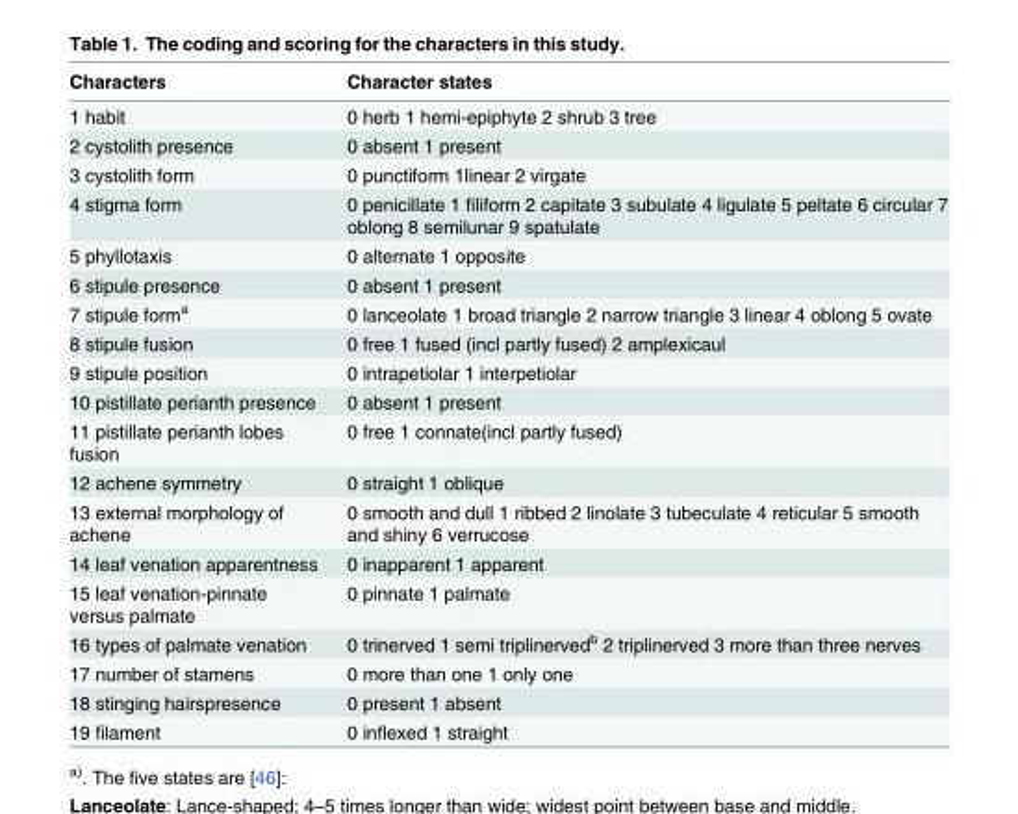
<table><thead><tr><td>Characters</td><td>Character states</td></tr></thead><tbody><tr><td>1 habit</td><td>0 herb 1 hemi-epiphyte 2 shrub 3 tree</td></tr><tr><td>2 cystolith presence</td><td>0 absent 1 present</td></tr><tr><td>3 cystolith form</td><td>0 punctiform 1linear 2 virgate</td></tr><tr><td>4 stigma form</td><td>0 penicillate 1 filiform 2 capitate 3 subulate 4 ligulate 5 peltate 6 circular 7 oblong 8 semilunar 9 spatulate</td></tr><tr><td>5 phyllotaxis</td><td>0 alternate 1 opposite</td></tr><tr><td>6 stipule presence</td><td>0 absent 1 present</td></tr><tr><td>7 stipule form<sup>a</sup></td><td>0 lanceolate 1 broad triangle 2 narrow triangle 3 linear 4 oblong 5 ovate</td></tr><tr><td>8 stipule fusion</td><td>0 free 1 fused (incl partly fused) 2 amplexicaul</td></tr><tr><td>9 stipule position</td><td>0 intrapetiolar 1 interpetiolar</td></tr><tr><td>10 pistillate perianth presence</td><td>0 absent 1 present</td></tr><tr><td>11 pistillate perianth lobes fusion</td><td>0 free 1 connate(incl partly fused)</td></tr><tr><td>12 achene symmetry</td><td>0 straight 1 oblique</td></tr><tr><td>13 external morphology of achene</td><td>0 smooth and dull 1 ribbed 2 linolate 3 tubeculate 4 reticular 5 smooth and shiny 6 verrucose</td></tr><tr><td>14 leaf venation apparentness</td><td>0 inapparent 1 apparent</td></tr><tr><td>15 leaf venation-pinnate versus palmate</td><td>0 pinnate 1 palmate</td></tr><tr><td>16 types of palmate venation</td><td>0 trinerved 1 semi triplinerved<sup>b</sup> 2 triplinerved 3 more than three nerves</td></tr><tr><td>17 number of stamens</td><td>0 more than one 1 only one</td></tr><tr><td>18 stinging hairspresence</td><td>0 present 1 absent</td></tr><tr><td>19 filament</td><td>0 inflexed 1 straight</td></tr></tbody></table>